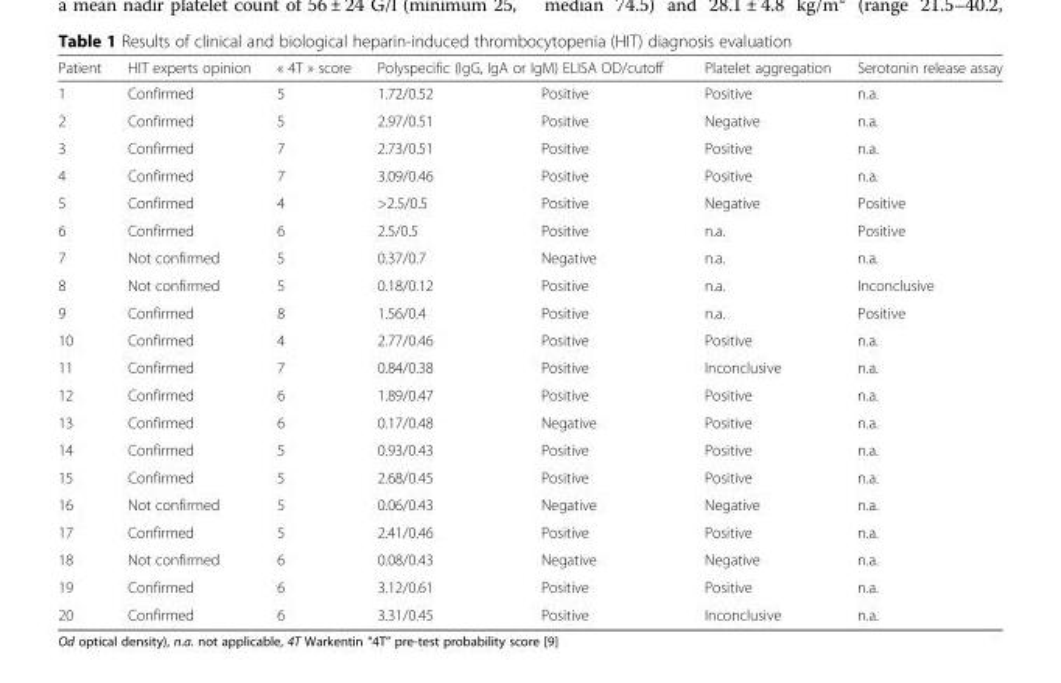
<table><thead><tr><td rowspan="2">Patient 1</td><td rowspan="2">HIT experts opinion Confirmed</td><td rowspan="2">« 4T » score 5</td><td colspan="2">Polyspecific (IgG, IgA or IgM) ELISA OD/cutoff</td><td rowspan="2">Platelet aggregation Positive</td><td rowspan="2">Serotonin release assay n.a.</td></tr><tr><td>1.72/0.52</td><td>Positive</td></tr></thead><tbody><tr><td>2</td><td>Confirmed</td><td>5</td><td>2.97/0.51</td><td>Positive</td><td>Negative</td><td>n.a.</td></tr><tr><td>3</td><td>Confirmed</td><td>7</td><td>2.73/0.51</td><td>Positive</td><td>Positive</td><td>n.a.</td></tr><tr><td>4</td><td>Confirmed</td><td>7</td><td>3.09/0.46</td><td>Positive</td><td>Positive</td><td>n.a.</td></tr><tr><td>5</td><td>Confirmed</td><td>4</td><td>&gt;2.5/0.5</td><td>Positive</td><td>Negative</td><td>Positive</td></tr><tr><td>6</td><td>Confirmed</td><td>6</td><td>2.5/0.5</td><td>Positive</td><td>n.a.</td><td>Positive</td></tr><tr><td>7</td><td>Not confirmed</td><td>5</td><td>0.37/0.7</td><td>Negative</td><td>n.a.</td><td>n.a.</td></tr><tr><td>8</td><td>Not confirmed</td><td>5</td><td>0.18/0.12</td><td>Positive</td><td>n.a.</td><td>Inconclusive</td></tr><tr><td>9</td><td>Confirmed</td><td>8</td><td>1.56/0.4</td><td>Positive</td><td>n.a.</td><td>Positive</td></tr><tr><td>10</td><td>Confirmed</td><td>4</td><td>2.77/0.46</td><td>Positive</td><td>Positive</td><td>n.a.</td></tr><tr><td>11</td><td>Confirmed</td><td>7</td><td>0.84/0.38</td><td>Positive</td><td>Inconclusive</td><td>n.a.</td></tr><tr><td>12</td><td>Confirmed</td><td>6</td><td>1.89/0.47</td><td>Positive</td><td>Positive</td><td>n.a.</td></tr><tr><td>13</td><td>Confirmed</td><td>6</td><td>0.17/0.48</td><td>Negative</td><td>Positive</td><td>n.a.</td></tr><tr><td>14</td><td>Confirmed</td><td>5</td><td>0.93/0.43</td><td>Positive</td><td>Positive</td><td>n.a.</td></tr><tr><td>15</td><td>Confirmed</td><td>5</td><td>2.68/0.45</td><td>Positive</td><td>Positive</td><td>n.a.</td></tr><tr><td>16</td><td>Not confirmed</td><td>5</td><td>0.06/0.43</td><td>Negative</td><td>Negative</td><td>n.a.</td></tr><tr><td>17</td><td>Confirmed</td><td>5</td><td>2.41/0.46</td><td>Positive</td><td>Positive</td><td>n.a.</td></tr><tr><td>18</td><td>Not confirmed</td><td>6</td><td>0.08/0.43</td><td>Negative</td><td>Negative</td><td>n.a.</td></tr><tr><td>19</td><td>Confirmed</td><td>6</td><td>3.12/0.61</td><td>Positive</td><td>Positive</td><td>n.a.</td></tr><tr><td>20</td><td>Confirmed</td><td>6</td><td>3.31/0.45</td><td>Positive</td><td>Inconclusive</td><td>n.a.</td></tr></tbody></table>